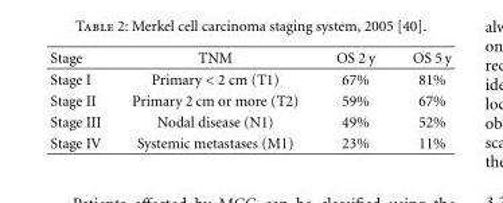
<table><thead><tr><td>Stage</td><td>TNM</td><td>OS 2 y</td><td>OS 5 y</td></tr></thead><tbody><tr><td>Stage I</td><td>Primary &lt; 2 cm (T1)</td><td>67%</td><td>81%</td></tr><tr><td>Stage II</td><td>Primary 2 cm or more (T2)</td><td>59%</td><td>67%</td></tr><tr><td>Stage III</td><td>Nodal disease (N1)</td><td>49%</td><td>52%</td></tr><tr><td>Stage IV</td><td>Systemic metastases (M1)</td><td>23%</td><td>11%</td></tr></tbody></table>